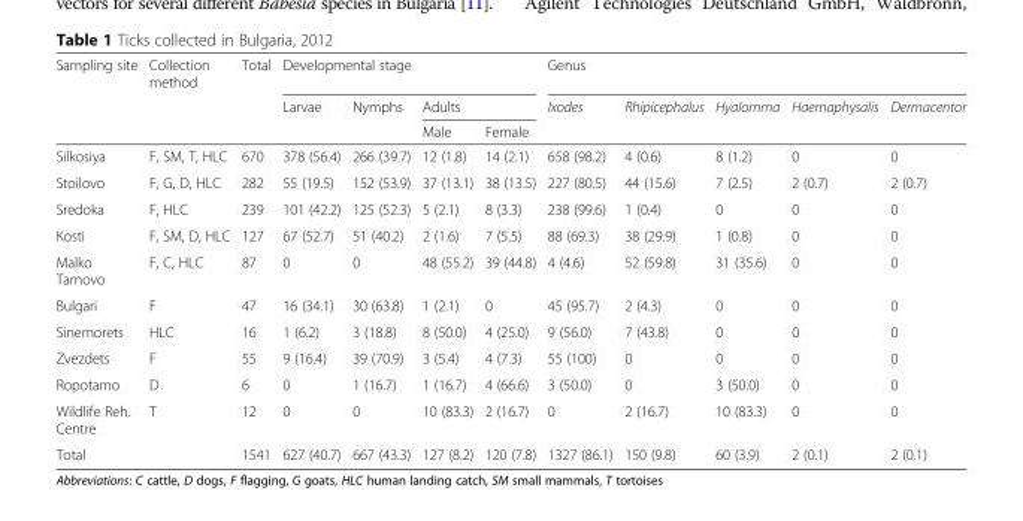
<table><thead><tr><td rowspan="3">Sampling site</td><td rowspan="3">Collection method</td><td rowspan="3">Total</td><td colspan="4">Developmental stage</td><td colspan="5">Genus</td></tr><tr><td rowspan="2">Larvae</td><td rowspan="2">Nymphs</td><td colspan="2">Adults</td><td rowspan="2">Ixodes</td><td rowspan="2">Rhipicephalus</td><td rowspan="2">Hyalomma</td><td rowspan="2">Haemaphysalis</td><td rowspan="2">Dermacentor</td></tr><tr><td>Male</td><td>Female</td></tr></thead><tbody><tr><td>Silkosiya</td><td>F, SM, T, HLC</td><td>670</td><td>378 (56.4)</td><td>266 (39.7)</td><td>12 (1.8)</td><td>14 (2.1)</td><td>658 (98.2)</td><td>4 (0.6)</td><td>8 (1.2)</td><td>0</td><td>0</td></tr><tr><td>Stoilovo</td><td>F, G, D, HLC</td><td>282</td><td>55 (19.5)</td><td>152 (53.9)</td><td>37 (13.1)</td><td>38 (13.5)</td><td>227 (80.5)</td><td>44 (15.6)</td><td>7 (2.5)</td><td>2 (0.7)</td><td>2 (0.7)</td></tr><tr><td>Sredoka</td><td>F, HLC</td><td>239</td><td>101 (42.2)</td><td>125 (52.3)</td><td>5 (2.1)</td><td>8 (3.3)</td><td>238 (99.6)</td><td>1 (0.4)</td><td>0</td><td>0</td><td>0</td></tr><tr><td>Kosti</td><td>F, SM, D, HLC</td><td>127</td><td>67 (52.7)</td><td>51 (40.2)</td><td>2 (1.6)</td><td>7 (5.5)</td><td>88 (69.3)</td><td>38 (29.9)</td><td>1 (0.8)</td><td>0</td><td>0</td></tr><tr><td>Malko Tarnovo</td><td>F, C, HLC</td><td>87</td><td>0</td><td>0</td><td>48 (55.2)</td><td>39 (44.8)</td><td>4 (4.6)</td><td>52 (59.8)</td><td>31 (35.6)</td><td>0</td><td>0</td></tr><tr><td>Bulgari</td><td>F</td><td>47</td><td>16 (34.1)</td><td>30 (63.8)</td><td>1 (2.1)</td><td>0</td><td>45 (95.7)</td><td>2 (4.3)</td><td>0</td><td>0</td><td>0</td></tr><tr><td>Sinemorets</td><td>HLC</td><td>16</td><td>1 (6.2)</td><td>3 (18.8)</td><td>8 (50.0)</td><td>4 (25.0)</td><td>9 (56.0)</td><td>7 (43.8)</td><td>0</td><td>0</td><td>0</td></tr><tr><td>Zvezdets</td><td>F</td><td>55</td><td>9 (16.4)</td><td>39 (70.9)</td><td>3 (5.4)</td><td>4 (7.3)</td><td>55 (100)</td><td>0</td><td>0</td><td>0</td><td>0</td></tr><tr><td>Ropotamo</td><td>D</td><td>6</td><td>0</td><td>1 (16.7)</td><td>1 (16.7)</td><td>4 (66.6)</td><td>3 (50.0)</td><td>0</td><td>3 (50.0)</td><td>0</td><td>0</td></tr><tr><td>Wildlife Reh. Centre</td><td>T</td><td>12</td><td>0</td><td>0</td><td>10 (83.3)</td><td>2 (16.7)</td><td>0</td><td>2 (16.7)</td><td>10 (83.3)</td><td>0</td><td>0</td></tr><tr><td>Total</td><td></td><td>1541</td><td>627 (40.7)</td><td>667 (43.3)</td><td>127 (8.2)</td><td>120 (7.8)</td><td>1327 (86.1)</td><td>150 (9.8)</td><td>60 (3.9)</td><td>2 (0.1)</td><td>2 (0.1)</td></tr></tbody></table>